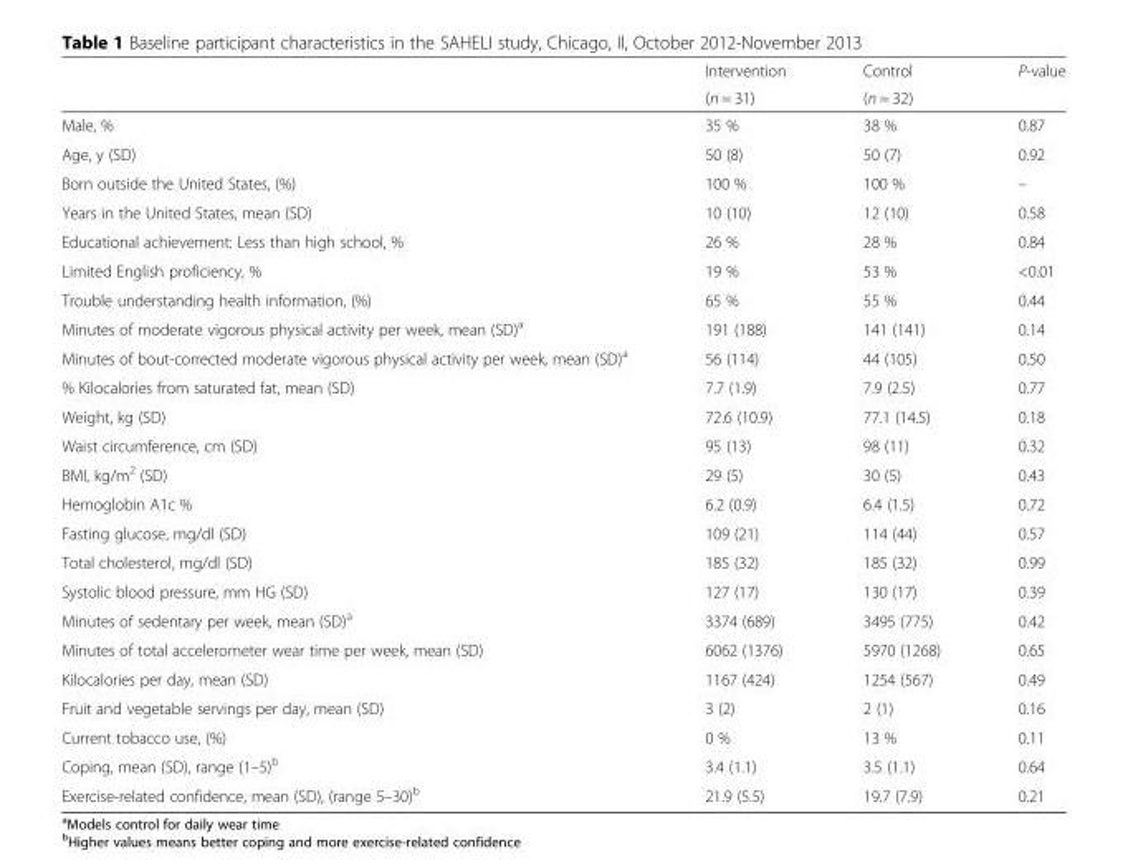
<table><thead><tr><td rowspan="2"></td><td rowspan="2">Intervention (n = 31)</td><td rowspan="2">Control (n = 32)</td><td rowspan="2">P-value</td></tr><tr></tr></thead><tbody><tr><td>Male, %</td><td>35 %</td><td>38 %</td><td>0.87</td></tr><tr><td>Age, y (SD)</td><td>50 (8)</td><td>50 (7)</td><td>0.92</td></tr><tr><td>Born outside the United States, (%)</td><td>100 %</td><td>100 %</td><td>–</td></tr><tr><td>Years in the United States, mean (SD)</td><td>10 (10)</td><td>12 (10)</td><td>0.58</td></tr><tr><td>Educational achievement: Less than high school, %</td><td>26 %</td><td>28 %</td><td>0.84</td></tr><tr><td>Limited English proficiency, %</td><td>19 %</td><td>53 %</td><td>&lt;0.01</td></tr><tr><td>Trouble understanding health information, (%)</td><td>65 %</td><td>55 %</td><td>0.44</td></tr><tr><td>Minutes of moderate vigorous physical activity per week, mean (SD)<sup>a</sup></td><td>191 (188)</td><td>141 (141)</td><td>0.14</td></tr><tr><td>Minutes of bout-corrected moderate vigorous physical activity per week, mean (SD)<sup>a</sup></td><td>56 (114)</td><td>44 (105)</td><td>0.50</td></tr><tr><td>% Kilocalories from saturated fat, mean (SD)</td><td>7.7 (1.9)</td><td>7.9 (2.5)</td><td>0.77</td></tr><tr><td>Weight, kg (SD)</td><td>72.6 (10.9)</td><td>77.1 (14.5)</td><td>0.18</td></tr><tr><td>Waist circumference, cm (SD)</td><td>95 (13)</td><td>98 (11)</td><td>0.32</td></tr><tr><td>BMI, kg/m<sup>2</sup> (SD)</td><td>29 (5)</td><td>30 (5)</td><td>0.43</td></tr><tr><td>Hemoglobin A1c %</td><td>6.2 (0.9)</td><td>6.4 (1.5)</td><td>0.72</td></tr><tr><td>Fasting glucose, mg/dl (SD)</td><td>109 (21)</td><td>114 (44)</td><td>0.57</td></tr><tr><td>Total cholesterol, mg/dl (SD)</td><td>185 (32)</td><td>185 (32)</td><td>0.99</td></tr><tr><td>Systolic blood pressure, mm HG (SD)</td><td>127 (17)</td><td>130 (17)</td><td>0.39</td></tr><tr><td>Minutes of sedentary per week, mean (SD)<sup>a</sup></td><td>3374 (689)</td><td>3495 (775)</td><td>0.42</td></tr><tr><td>Minutes of total accelerometer wear time per week, mean (SD)</td><td>6062 (1376)</td><td>5970 (1268)</td><td>0.65</td></tr><tr><td>Kilocalories per day, mean (SD)</td><td>1167 (424)</td><td>1254 (567)</td><td>0.49</td></tr><tr><td>Fruit and vegetable servings per day, mean (SD)</td><td>3 (2)</td><td>2 (1)</td><td>0.16</td></tr><tr><td>Current tobacco use, (%)</td><td>0 %</td><td>13 %</td><td>0.11</td></tr><tr><td>Coping, mean (SD), range (1–5)<sup>b</sup></td><td>3.4 (1.1)</td><td>3.5 (1.1)</td><td>0.64</td></tr><tr><td>Exercise-related confidence, mean (SD), (range 5–30)<sup>b</sup></td><td>21.9 (5.5)</td><td>19.7 (7.9)</td><td>0.21</td></tr></tbody></table>